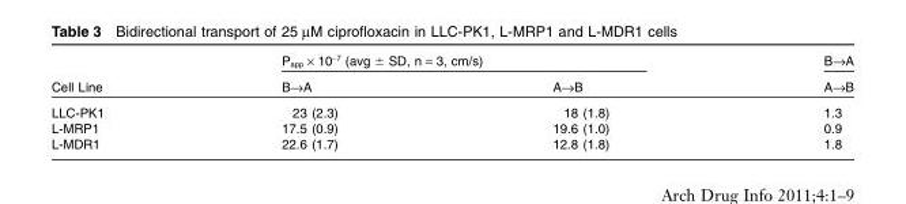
<table><thead><tr><td rowspan="2">Cell Line</td><td colspan="2">P<sub>app</sub> × 10<sup>-7</sup> (avg ± SD, n = 3, cm/s)</td><td rowspan="2">B→A A→B</td></tr><tr><td>B→A</td><td>A→B</td></tr></thead><tbody><tr><td>LLC-PK1</td><td>23 (2.3)</td><td>18 (1.8)</td><td>1.3</td></tr><tr><td>L-MRP1</td><td>17.5 (0.9)</td><td>19.6 (1.0)</td><td>0.9</td></tr><tr><td>L-MDR1</td><td>22.6 (1.7)</td><td>12.8 (1.8)</td><td>1.8</td></tr></tbody></table>